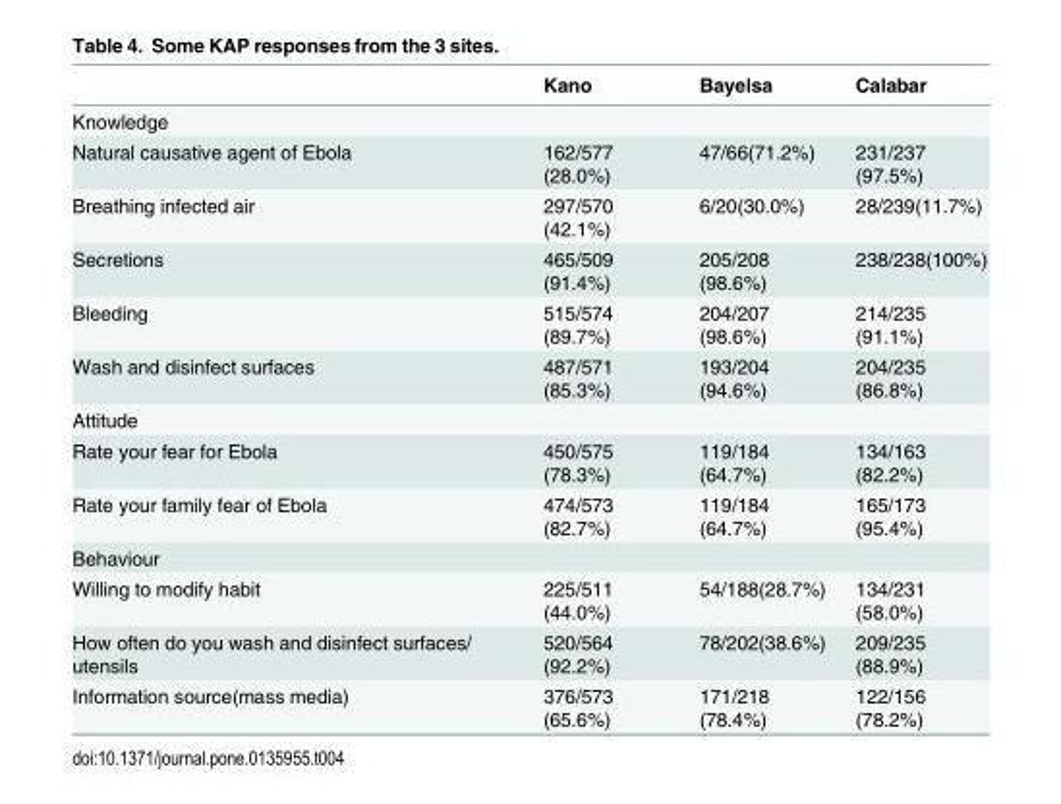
<table><thead><tr><td></td><td>Kano</td><td>Bayelsa</td><td>Calabar</td></tr></thead><tbody><tr><td colspan="4">Knowledge</td></tr><tr><td>Natural causative agent of Ebola</td><td>162/577 (28.0%)</td><td>47/66(71.2%)</td><td>231/237 (97.5%)</td></tr><tr><td>Breathing infected air</td><td>297/570 (42.1%)</td><td>6/20(30.0%)</td><td>28/239(11.7%)</td></tr><tr><td>Secretions</td><td>465/509 (91.4%)</td><td>205/208 (98.6%)</td><td>238/238(100%)</td></tr><tr><td>Bleeding</td><td>515/574 (89.7%)</td><td>204/207 (98.6%)</td><td>214/235 (91.1%)</td></tr><tr><td>Wash and disinfect surfaces</td><td>487/571 (85.3%)</td><td>193/204 (94.6%)</td><td>204/235 (86.8%)</td></tr><tr><td colspan="4">Attitude</td></tr><tr><td>Rate your fear for Ebola</td><td>450/575 (78.3%)</td><td>119/184 (64.7%)</td><td>134/163 (82.2%)</td></tr><tr><td>Rate your family fear of Ebola</td><td>474/573 (82.7%)</td><td>119/184 (64.7%)</td><td>165/173 (95.4%)</td></tr><tr><td colspan="4">Behaviour</td></tr><tr><td>Willing to modify habit</td><td>225/511 (44.0%)</td><td>54/188(28.7%)</td><td>134/231 (58.0%)</td></tr><tr><td>How often do you wash and disinfect surfaces/ utensils</td><td>520/564 (92.2%)</td><td>78/202(38.6%)</td><td>209/235 (88.9%)</td></tr><tr><td>Information source(mass media)</td><td>376/573 (65.6%)</td><td>171/218 (78.4%)</td><td>122/156 (78.2%)</td></tr></tbody></table>